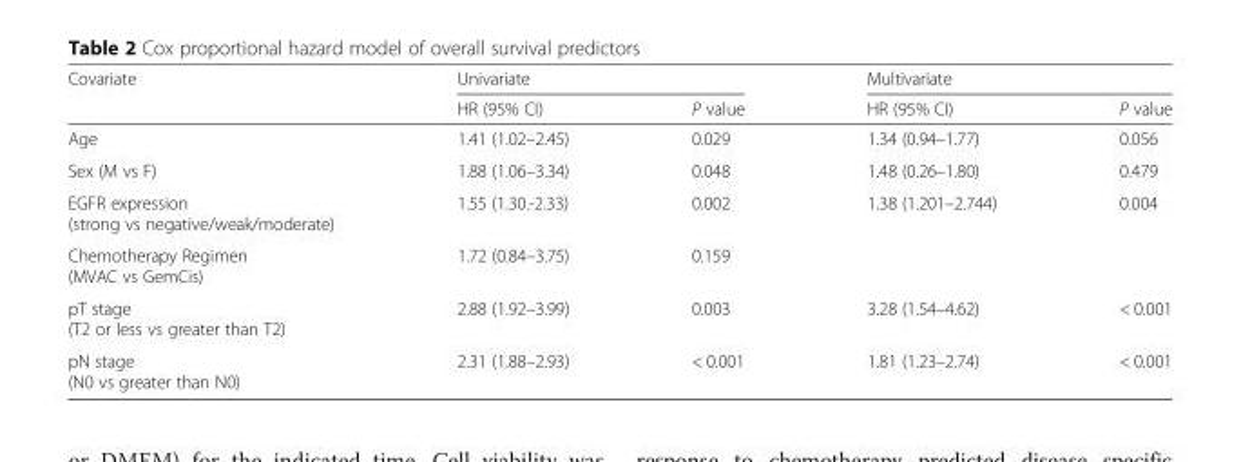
<table><thead><tr><td rowspan="2">Covariate</td><td colspan="2">Univariate</td><td colspan="2">Multivariate</td></tr><tr><td>HR (95% CI)</td><td>P value</td><td>HR (95% CI)</td><td>P value</td></tr></thead><tbody><tr><td>Age</td><td>1.41 (1.02–2.45)</td><td>0.029</td><td>1.34 (0.94–1.77)</td><td>0.056</td></tr><tr><td>Sex (M vs F)</td><td>1.88 (1.06–3.34)</td><td>0.048</td><td>1.48 (0.26–1.80)</td><td>0.479</td></tr><tr><td>EGFR expression (strong vs negative/weak/moderate)</td><td>1.55 (1.30.-2.33)</td><td>0.002</td><td>1.38 (1.201–2.744)</td><td>0.004</td></tr><tr><td>Chemotherapy Regimen (MVAC vs GemCis)</td><td>1.72 (0.84–3.75)</td><td>0.159</td><td></td><td></td></tr><tr><td>pT stage (T2 or less vs greater than T2)</td><td>2.88 (1.92–3.99)</td><td>0.003</td><td>3.28 (1.54–4.62)</td><td>&lt; 0.001</td></tr><tr><td>pN stage (N0 vs greater than N0)</td><td>2.31 (1.88–2.93)</td><td>&lt; 0.001</td><td>1.81 (1.23–2.74)</td><td>&lt; 0.001</td></tr></tbody></table>